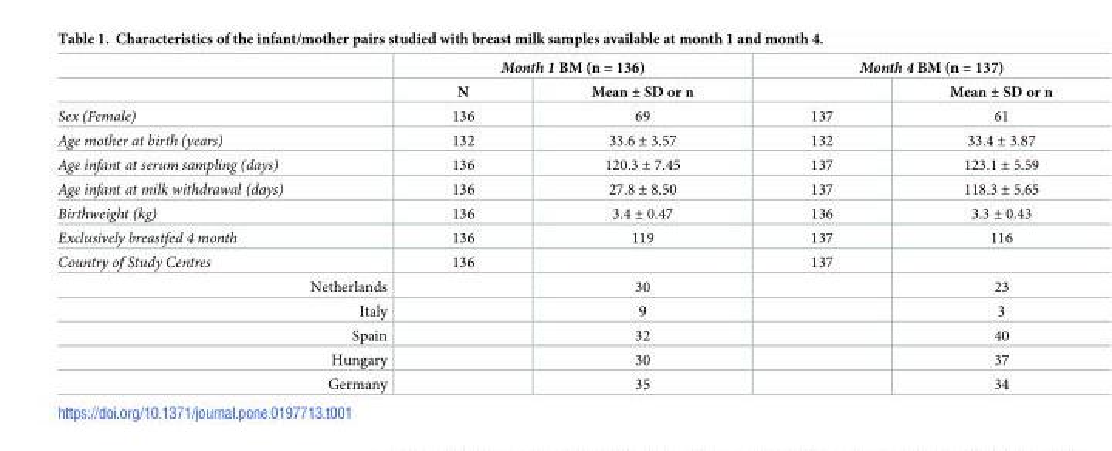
<table><thead><tr><td rowspan="2"></td><td colspan="2">Month 1 BM (n = 136)</td><td colspan="2">Month 4 BM (n = 137)</td></tr><tr><td>N</td><td>Mean ± SD or n</td><td></td><td>Mean ± SD or n</td></tr></thead><tbody><tr><td>Sex (Female)</td><td>136</td><td>69</td><td>137</td><td>61</td></tr><tr><td>Age mother at birth (years)</td><td>132</td><td>33.6 ± 3.57</td><td>132</td><td>33.4 ± 3.87</td></tr><tr><td>Age infant at serum sampling (days)</td><td>136</td><td>120.3 ± 7.45</td><td>137</td><td>123.1 ± 5.59</td></tr><tr><td>Age infant at milk withdrawal (days)</td><td>136</td><td>27.8 ± 8.50</td><td>137</td><td>118.3 ± 5.65</td></tr><tr><td>Birthweight (kg)</td><td>136</td><td>3.4 ± 0.47</td><td>136</td><td>3.3 ± 0.43</td></tr><tr><td>Exclusively breastfed 4 month</td><td>136</td><td>119</td><td>137</td><td>116</td></tr><tr><td>Country of Study Centres</td><td>136</td><td></td><td>137</td><td></td></tr><tr><td>Netherlands</td><td></td><td>30</td><td></td><td>23</td></tr><tr><td>Italy</td><td></td><td>9</td><td></td><td>3</td></tr><tr><td>Spain</td><td></td><td>32</td><td></td><td>40</td></tr><tr><td>Hungary</td><td></td><td>30</td><td></td><td>37</td></tr><tr><td>Germany</td><td></td><td>35</td><td></td><td>34</td></tr></tbody></table>